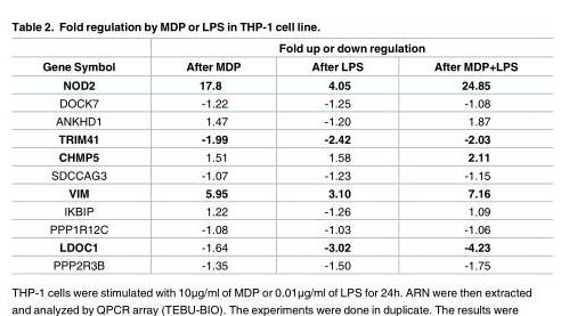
<table><thead><tr><td rowspan="2">Gene Symbol</td><td colspan="3">Fold up or down regulation</td></tr><tr><td>After MDP</td><td>After LPS</td><td>After MDP+LPS</td></tr></thead><tbody><tr><td>NOD2</td><td>17.8</td><td>4.05</td><td>24.85</td></tr><tr><td>DOCK7</td><td>-1.22</td><td>-1.25</td><td>-1.08</td></tr><tr><td>ANKHD1</td><td>1.47</td><td>-1.20</td><td>1.87</td></tr><tr><td>TRIM41</td><td>-1.99</td><td>-2.42</td><td>-2.03</td></tr><tr><td>CHMP5</td><td>1.51</td><td>1.58</td><td>2.11</td></tr><tr><td>SDCCAG3</td><td>-1.07</td><td>-1.23</td><td>-1.15</td></tr><tr><td>VIM</td><td>5.95</td><td>3.10</td><td>7.16</td></tr><tr><td>IKBIP</td><td>1.22</td><td>-1.26</td><td>1.09</td></tr><tr><td>PPP1R12C</td><td>-1.08</td><td>-1.03</td><td>-1.06</td></tr><tr><td>LDOC1</td><td>-1.64</td><td>-3.02</td><td>-4.23</td></tr><tr><td>PPP2R3B</td><td>-1.35</td><td>-1.50</td><td>-1.75</td></tr></tbody></table>